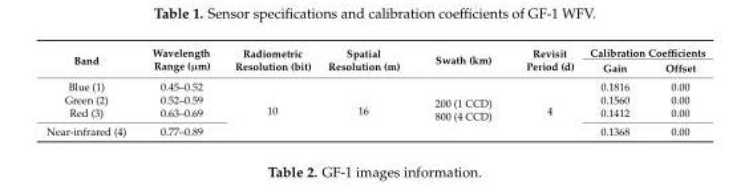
<table><thead><tr><td rowspan="2">Band</td><td rowspan="2">Wavelength Range (µm)</td><td rowspan="2">Radiometric Resolution (bit)</td><td rowspan="2">Spatial Resolution (m)</td><td rowspan="2">Swath (km)</td><td rowspan="2">Revisit Period (d)</td><td colspan="2">Calibration Coefficients</td></tr><tr><td>Gain</td><td>Offset</td></tr></thead><tbody><tr><td>Blue (1)</td><td>0.45–0.52</td><td rowspan="4">10</td><td rowspan="4">16</td><td rowspan="4">200 (1 CCD) 800 (4 CCD)</td><td rowspan="4">4</td><td>0.1816</td><td>0.00</td></tr><tr><td>Green (2)</td><td>0.52–0.59</td><td>0.1560</td><td>0.00</td></tr><tr><td>Red (3)</td><td>0.63–0.69</td><td>0.1412</td><td>0.00</td></tr><tr><td>Near-infrared (4)</td><td>0.77–0.89</td><td>0.1368</td><td>0.00</td></tr></tbody></table>